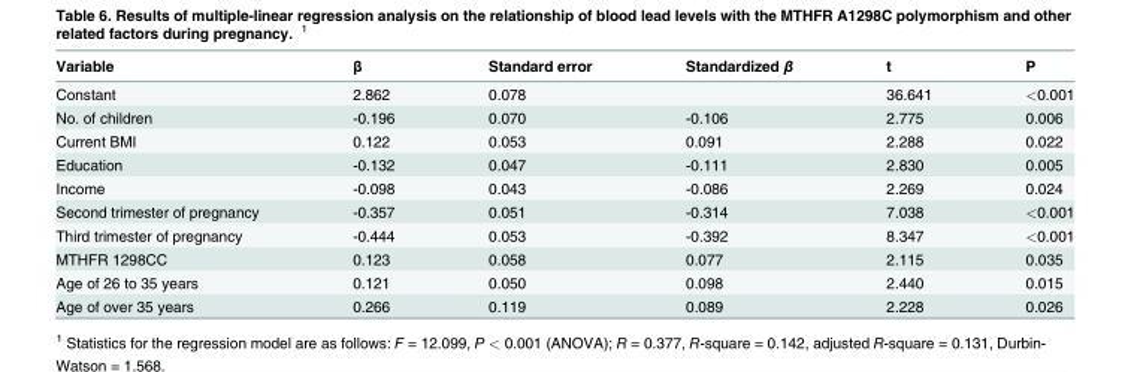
<table><thead><tr><td>Variable</td><td>β</td><td>Standard error</td><td>Standardized β</td><td>t</td><td>P</td></tr></thead><tbody><tr><td>Constant</td><td>2.862</td><td>0.078</td><td></td><td>36.641</td><td>&lt;0.001</td></tr><tr><td>No. of children</td><td>-0.196</td><td>0.070</td><td>-0.106</td><td>2.775</td><td>0.006</td></tr><tr><td>Current BMI</td><td>0.122</td><td>0.053</td><td>0.091</td><td>2.288</td><td>0.022</td></tr><tr><td>Education</td><td>-0.132</td><td>0.047</td><td>-0.111</td><td>2.830</td><td>0.005</td></tr><tr><td>Income</td><td>-0.098</td><td>0.043</td><td>-0.086</td><td>2.269</td><td>0.024</td></tr><tr><td>Second trimester of pregnancy</td><td>-0.357</td><td>0.051</td><td>-0.314</td><td>7.038</td><td>&lt;0.001</td></tr><tr><td>Third trimester of pregnancy</td><td>-0.444</td><td>0.053</td><td>-0.392</td><td>8.347</td><td>&lt;0.001</td></tr><tr><td>MTHFR 1298CC</td><td>0.123</td><td>0.058</td><td>0.077</td><td>2.115</td><td>0.035</td></tr><tr><td>Age of 26 to 35 years</td><td>0.121</td><td>0.050</td><td>0.098</td><td>2.440</td><td>0.015</td></tr><tr><td>Age of over 35 years</td><td>0.266</td><td>0.119</td><td>0.089</td><td>2.228</td><td>0.026</td></tr></tbody></table>